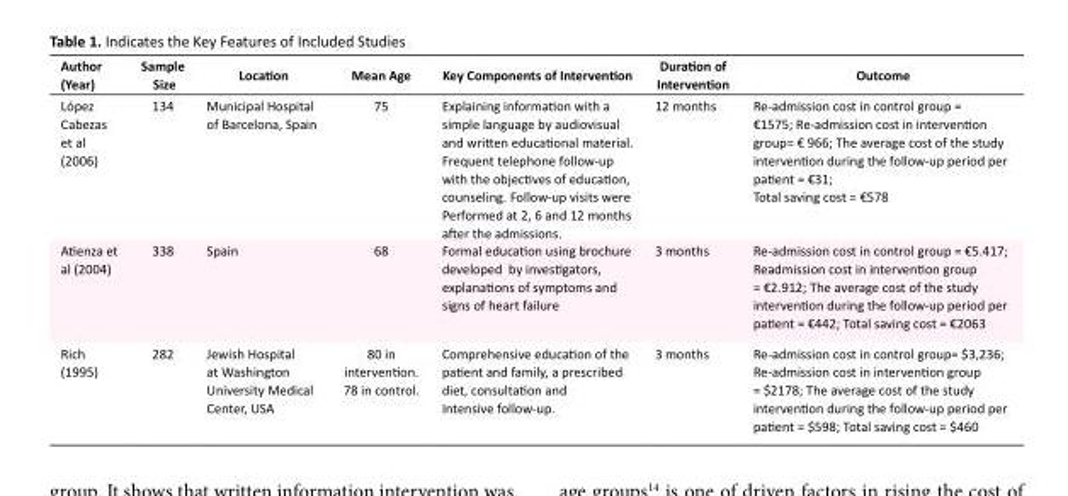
<table><tbody><tr><td>Author (Year)</td><td>Sample Size</td><td>Location</td><td>Mean Age</td><td>Key Components of Intervention</td><td>Duration of Intervention</td><td>Outcome</td></tr><tr><td>López Cabezas et al (2006)</td><td>134</td><td>Municipal Hospital of Barcelona, Spain</td><td>75</td><td>Explaining information with a simple language by audiovisual and written educational material. Frequent telephone follow-up with the objectives of education, counseling. Follow-up visits were Performed at 2, 6 and 12 months after the admissions.</td><td>12 months</td><td>Re-admission cost in control group = €1575; Re-admission cost in intervention group= € 966; The average cost of the study intervention during the follow-up period per patient = €31; Total saving cost = €578</td></tr><tr><td>Atienza et al (2004)</td><td>338</td><td>Spain</td><td>68</td><td>Formal education using brochure developed by investigators, explanations of symptoms and signs of heart failure</td><td>3 months</td><td>Re-admission cost in control group = €5.417; Readmission cost in intervention group = €2.912; The average cost of the study intervention during the follow-up period per patient = €442; Total saving cost = €2063</td></tr><tr><td>Rich (1995)</td><td>282</td><td>Jewish Hospital at Washington University Medical Center, USA</td><td>80 in intervention. 78 in control.</td><td>Comprehensive education of the patient and family, a prescribed diet, consultation and Intensive follow-up.</td><td>3 months</td><td>Re-admission cost in control group= $3,236; Re-admission cost in intervention group = $2178; The average cost of the study intervention during the follow-up period per patient = $598; Total saving cost = $460</td></tr></tbody></table>